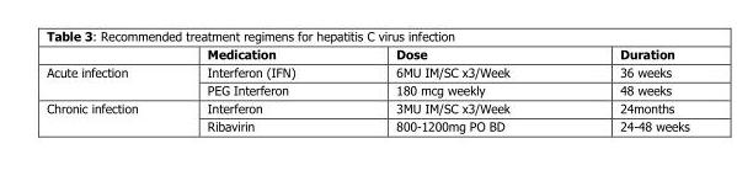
<table><thead><tr><td></td><td>Medication</td><td>Dose</td><td>Duration</td></tr></thead><tbody><tr><td rowspan="2">Acute infection</td><td>Interferon (IFN)</td><td>6MU IM/SC x3/Week</td><td>36 weeks</td></tr><tr><td>PEG Interferon</td><td>180 mcg weekly</td><td>48 weeks</td></tr><tr><td rowspan="2">Chronic infection</td><td>Interferon</td><td>3MU IM/SC x3/Week</td><td>24months</td></tr><tr><td>Ribavirin</td><td>800-1200mg PO BD</td><td>24-48 weeks</td></tr></tbody></table>